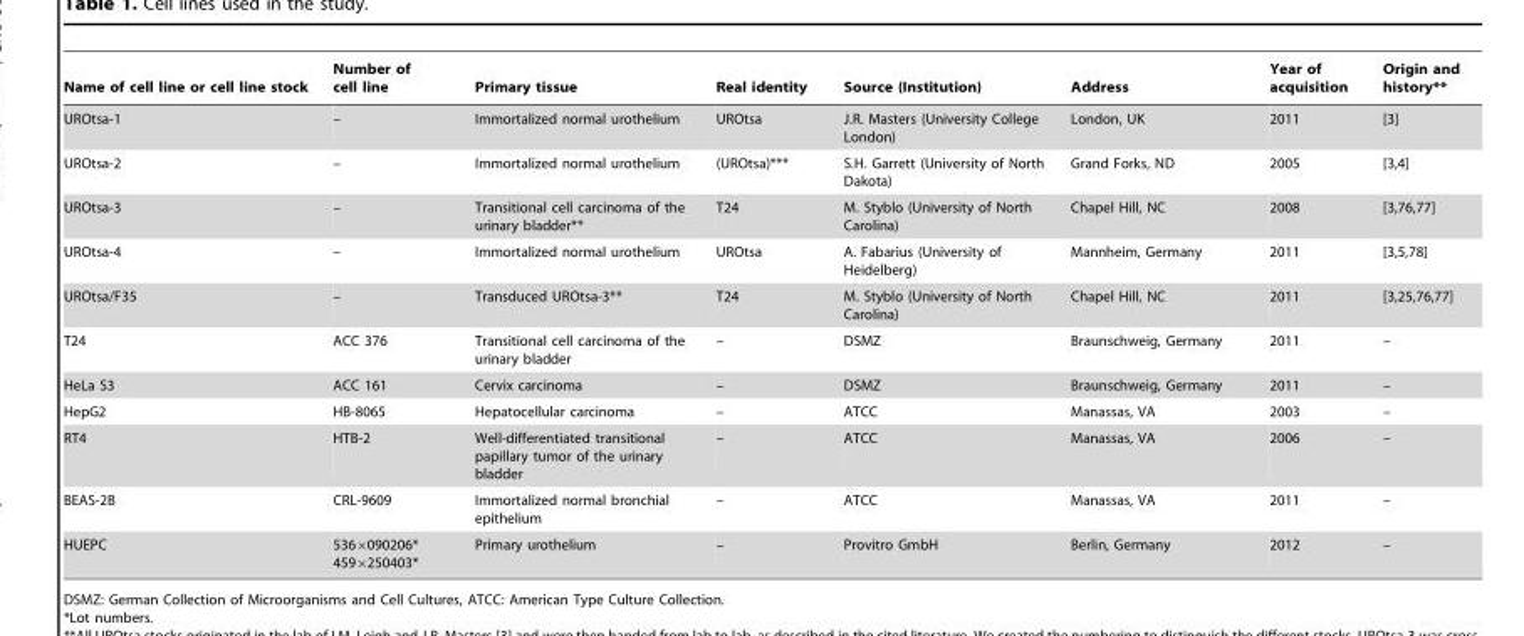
<table><thead><tr><td>Name of cell line or cell line stock</td><td>Number of cell line</td><td>Primary tissue</td><td>Real identity</td><td>Source (Institution)</td><td>Address</td><td>Year of acquisition</td><td>Origin and history**</td></tr></thead><tbody><tr><td>UROtsa-1</td><td>–</td><td>Immortalized normal urothelium</td><td>UROtsa</td><td>J.R. Masters (University College London)</td><td>London, UK</td><td>2011</td><td>[3]</td></tr><tr><td>UROtsa-2</td><td>–</td><td>Immortalized normal urothelium</td><td>(UROtsa)***</td><td>S.H. Garrett (University of North Dakota)</td><td>Grand Forks, ND</td><td>2005</td><td>[3,4]</td></tr><tr><td>UROtsa-3</td><td>–</td><td>Transitional cell carcinoma of the urinary bladder**</td><td>T24</td><td>M. Styblo (University of North Carolina)</td><td>Chapel Hill, NC</td><td>2008</td><td>[3,76,77]</td></tr><tr><td>UROtsa-4</td><td>–</td><td>Immortalized normal urothelium</td><td>UROtsa</td><td>A. Fabarius (University of Heidelberg)</td><td>Mannheim, Germany</td><td>2011</td><td>[3,5,78]</td></tr><tr><td>UROtsa/F35</td><td>–</td><td>Transduced UROtsa-3**</td><td>T24</td><td>M. Styblo (University of North Carolina)</td><td>Chapel Hill, NC</td><td>2011</td><td>[3,25,76,77]</td></tr><tr><td>T24</td><td>ACC 376</td><td>Transitional cell carcinoma of the urinary bladder</td><td>–</td><td>DSMZ</td><td>Braunschweig, Germany</td><td>2011</td><td>–</td></tr><tr><td>HeLa S3</td><td>ACC 161</td><td>Cervix carcinoma</td><td>–</td><td>DSMZ</td><td>Braunschweig, Germany</td><td>2011</td><td>–</td></tr><tr><td>HepG2</td><td>HB-8065</td><td>Hepatocellular carcinoma</td><td>–</td><td>ATCC</td><td>Manassas, VA</td><td>2003</td><td>–</td></tr><tr><td>RT4</td><td>HTB-2</td><td>Well-differentiated transitional papillary tumor of the urinary bladder</td><td>–</td><td>ATCC</td><td>Manassas, VA</td><td>2006</td><td>–</td></tr><tr><td>BEAS-2B</td><td>CRL-9609</td><td>Immortalized normal bronchial epithelium</td><td>–</td><td>ATCC</td><td>Manassas, VA</td><td>2011</td><td>–</td></tr><tr><td>HUEPC</td><td>536×090206* 459×250403*</td><td>Primary urothelium</td><td>–</td><td>Provitro GmbH</td><td>Berlin, Germany</td><td>2012</td><td>–</td></tr></tbody></table>